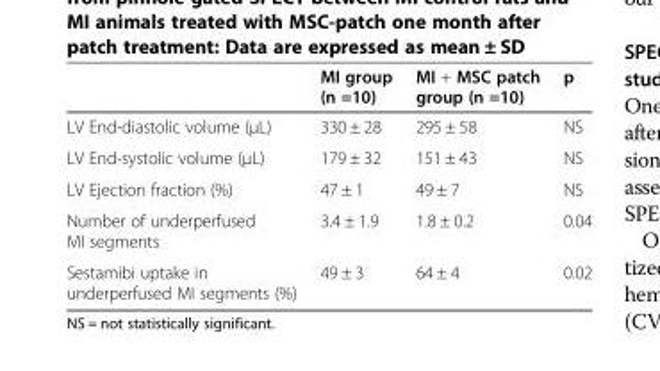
<table><thead><tr><td></td><td>MI group (n =10)</td><td>MI + MSC patch group (n =10)</td><td>p</td></tr></thead><tbody><tr><td>LV End-diastolic volume (μL)</td><td>330 ± 28</td><td>295 ± 58</td><td>NS</td></tr><tr><td>LV End-systolic volume (μL)</td><td>179 ± 32</td><td>151 ± 43</td><td>NS</td></tr><tr><td>LV Ejection fraction (%)</td><td>47 ± 1</td><td>49 ± 7</td><td>NS</td></tr><tr><td>Number of underperfused MI segments</td><td>3.4 ± 1.9</td><td>1.8 ± 0.2</td><td>0.04</td></tr><tr><td>Sestamibi uptake in underperfused MI segments (%)</td><td>49 ± 3</td><td>64 ± 4</td><td>0.02</td></tr></tbody></table>